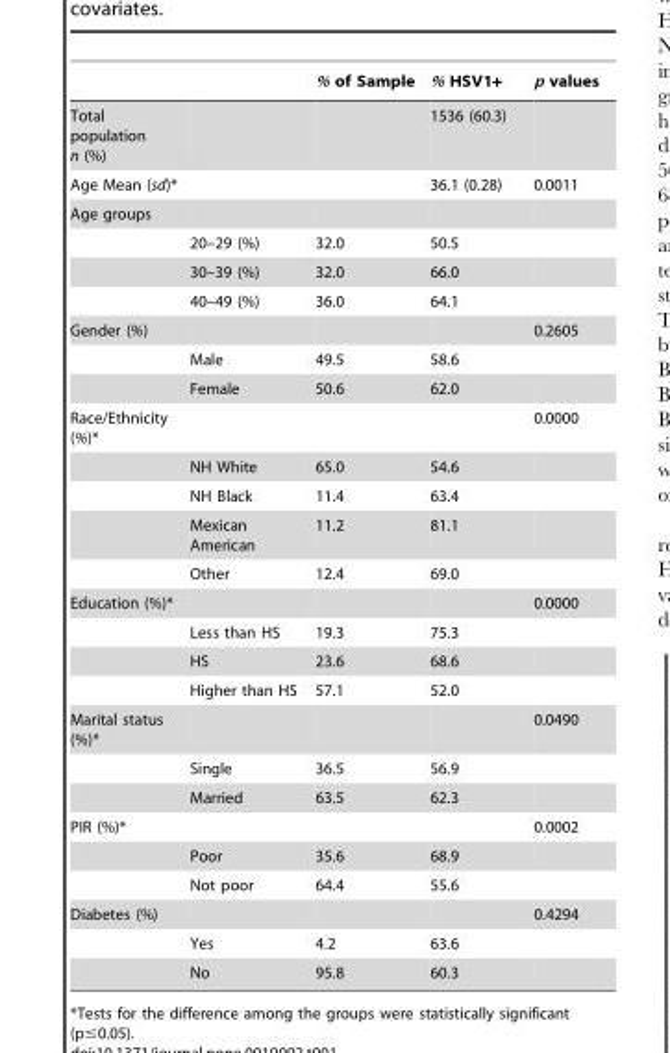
<table><thead><tr><td></td><td></td><td>% of Sample</td><td>% HSV1+</td><td>p values</td></tr></thead><tbody><tr><td>Total population n (%)</td><td></td><td></td><td>1536 (60.3)</td><td></td></tr><tr><td>Age Mean (sd)*</td><td></td><td></td><td>36.1 (0.28)</td><td>0.0011</td></tr><tr><td colspan="5">Age groups</td></tr><tr><td></td><td>20–29 (%)</td><td>32.0</td><td>50.5</td><td></td></tr><tr><td></td><td>30–39 (%)</td><td>32.0</td><td>66.0</td><td></td></tr><tr><td></td><td>40–49 (%)</td><td>36.0</td><td>64.1</td><td></td></tr><tr><td rowspan="3">Gender (%)</td><td></td><td></td><td></td><td>0.2605</td></tr><tr><td>Male</td><td>49.5</td><td>58.6</td><td></td></tr><tr><td>Female</td><td>50.6</td><td>62.0</td><td></td></tr><tr><td rowspan="5">Race/Ethnicity (%)*</td><td></td><td></td><td></td><td>0.0000</td></tr><tr><td>NH White</td><td>65.0</td><td>54.6</td><td></td></tr><tr><td>NH Black</td><td>11.4</td><td>63.4</td><td></td></tr><tr><td>Mexican American</td><td>11.2</td><td>81.1</td><td></td></tr><tr><td>Other</td><td>12.4</td><td>69.0</td><td></td></tr><tr><td rowspan="4">Education (%)*</td><td></td><td></td><td></td><td>0.0000</td></tr><tr><td>Less than HS</td><td>19.3</td><td>75.3</td><td></td></tr><tr><td>HS</td><td>23.6</td><td>68.6</td><td></td></tr><tr><td>Higher than HS</td><td>57.1</td><td>52.0</td><td></td></tr><tr><td rowspan="3">Marital status (%)*</td><td></td><td></td><td></td><td>0.0490</td></tr><tr><td>Single</td><td>36.5</td><td>56.9</td><td></td></tr><tr><td>Married</td><td>63.5</td><td>62.3</td><td></td></tr><tr><td rowspan="3">PIR (%)*</td><td></td><td></td><td></td><td>0.0002</td></tr><tr><td>Poor</td><td>35.6</td><td>68.9</td><td></td></tr><tr><td>Not poor</td><td>64.4</td><td>55.6</td><td></td></tr><tr><td rowspan="3">Diabetes (%)</td><td></td><td></td><td></td><td>0.4294</td></tr><tr><td>Yes</td><td>4.2</td><td>63.6</td><td></td></tr><tr><td>No</td><td>95.8</td><td>60.3</td><td></td></tr></tbody></table>